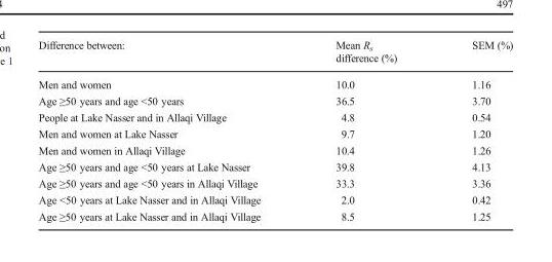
<table><thead><tr><td>Difference between:</td><td>Mean R<sub>s</sub> difference (%)</td><td>SEM (%)</td></tr></thead><tbody><tr><td>Men and women</td><td>10.0</td><td>1.16</td></tr><tr><td>Age ≥50 years and age &lt;50 years</td><td>36.5</td><td>3.70</td></tr><tr><td>People at Lake Nasser and in Allaqi Village</td><td>4.8</td><td>0.54</td></tr><tr><td>Men and women at Lake Nasser</td><td>9.7</td><td>1.20</td></tr><tr><td>Men and women in Allaqi Village</td><td>10.4</td><td>1.26</td></tr><tr><td>Age ≥50 years and age &lt;50 years at Lake Nasser</td><td>39.8</td><td>4.13</td></tr><tr><td>Age ≥50 years and age &lt;50 years in Allaqi Village</td><td>33.3</td><td>3.36</td></tr><tr><td>Age &lt;50 years at Lake Nasser and in Allaqi Village</td><td>2.0</td><td>0.42</td></tr><tr><td>Age ≥50 years at Lake Nasser and in Allaqi Village</td><td>8.5</td><td>1.25</td></tr></tbody></table>